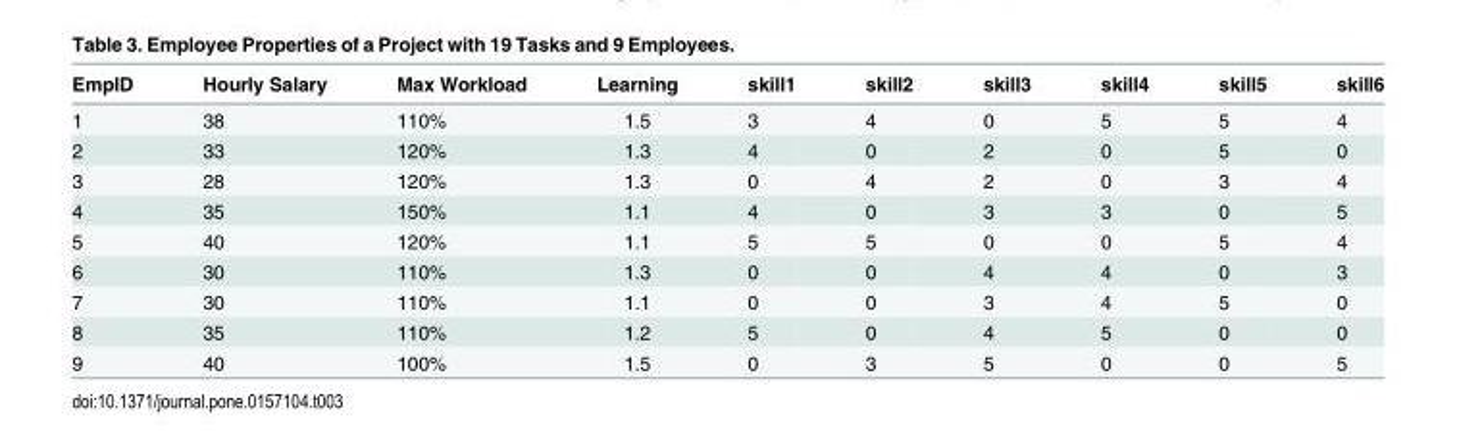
<table><thead><tr><td>EmpID</td><td>Hourly Salary</td><td>Max Workload</td><td>Learning</td><td>skill1</td><td>skill2</td><td>skill3</td><td>skill4</td><td>skill5</td><td>skill6</td></tr></thead><tbody><tr><td>1</td><td>38</td><td>110%</td><td>1.5</td><td>3</td><td>4</td><td>0</td><td>5</td><td>5</td><td>4</td></tr><tr><td>2</td><td>33</td><td>120%</td><td>1.3</td><td>4</td><td>0</td><td>2</td><td>0</td><td>5</td><td>0</td></tr><tr><td>3</td><td>28</td><td>120%</td><td>1.3</td><td>0</td><td>4</td><td>2</td><td>0</td><td>3</td><td>4</td></tr><tr><td>4</td><td>35</td><td>150%</td><td>1.1</td><td>4</td><td>0</td><td>3</td><td>3</td><td>0</td><td>5</td></tr><tr><td>5</td><td>40</td><td>120%</td><td>1.1</td><td>5</td><td>5</td><td>0</td><td>0</td><td>5</td><td>4</td></tr><tr><td>6</td><td>30</td><td>110%</td><td>1.3</td><td>0</td><td>0</td><td>4</td><td>4</td><td>0</td><td>3</td></tr><tr><td>7</td><td>30</td><td>110%</td><td>1.1</td><td>0</td><td>0</td><td>3</td><td>4</td><td>5</td><td>0</td></tr><tr><td>8</td><td>35</td><td>110%</td><td>1.2</td><td>5</td><td>0</td><td>4</td><td>5</td><td>0</td><td>0</td></tr><tr><td>9</td><td>40</td><td>100%</td><td>1.5</td><td>0</td><td>3</td><td>5</td><td>0</td><td>0</td><td>5</td></tr></tbody></table>